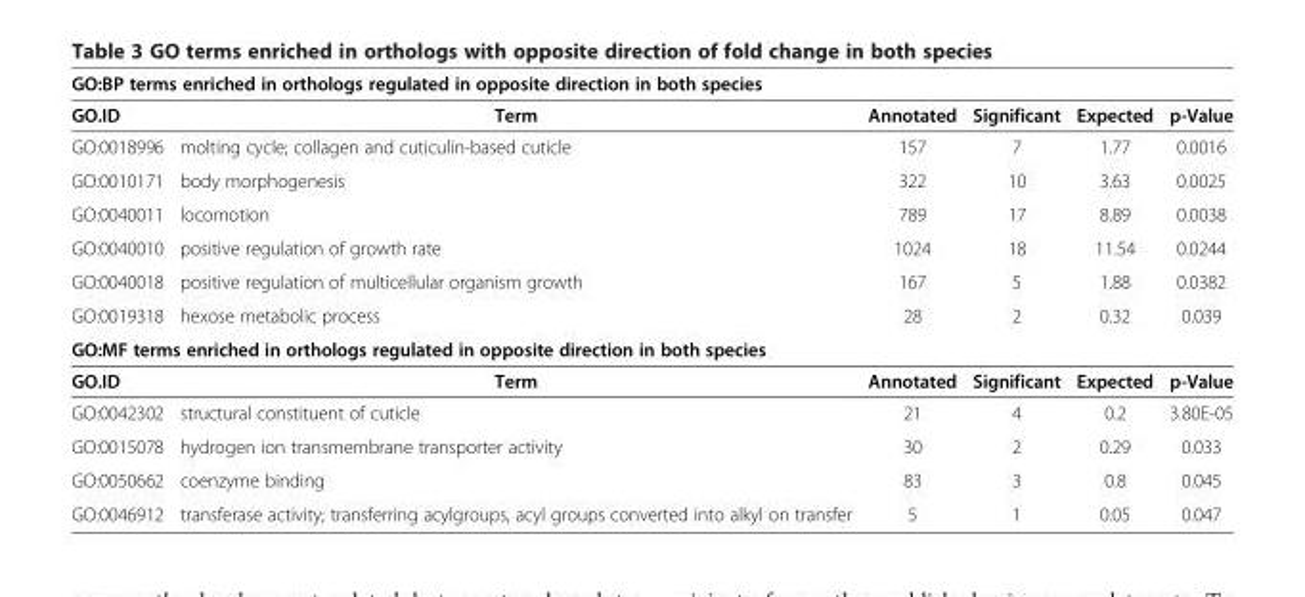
<table><thead><tr><td colspan="6">GO:BP terms enriched in orthologs regulated in opposite direction in both species</td></tr><tr><td>GO.ID</td><td>Term</td><td>Annotated</td><td>Significant</td><td>Expected</td><td>p-Value</td></tr></thead><tbody><tr><td>GO:0018996</td><td>molting cycle; collagen and cuticulin-based cuticle</td><td>157</td><td>7</td><td>1.77</td><td>0.0016</td></tr><tr><td>GO:0010171</td><td>body morphogenesis</td><td>322</td><td>10</td><td>3.63</td><td>0.0025</td></tr><tr><td>GO:0040011</td><td>locomotion</td><td>789</td><td>17</td><td>8.89</td><td>0.0038</td></tr><tr><td>GO:0040010</td><td>positive regulation of growth rate</td><td>1024</td><td>18</td><td>11.54</td><td>0.0244</td></tr><tr><td>GO:0040018</td><td>positive regulation of multicellular organism growth</td><td>167</td><td>5</td><td>1.88</td><td>0.0382</td></tr><tr><td>GO:0019318</td><td>hexose metabolic process</td><td>28</td><td>2</td><td>0.32</td><td>0.039</td></tr><tr><td colspan="6">GO:MF terms enriched in orthologs regulated in opposite direction in both species</td></tr><tr><td>GO.ID</td><td>Term</td><td>Annotated</td><td>Significant</td><td>Expected</td><td>p-Value</td></tr><tr><td>GO:0042302</td><td>structural constituent of cuticle</td><td>21</td><td>4</td><td>0.2</td><td>3.80E-05</td></tr><tr><td>GO:0015078</td><td>hydrogen ion transmembrane transporter activity</td><td>30</td><td>2</td><td>0.29</td><td>0.033</td></tr><tr><td>GO:0050662</td><td>coenzyme binding</td><td>83</td><td>3</td><td>0.8</td><td>0.045</td></tr><tr><td>GO:0046912</td><td>transferase activity; transferring acylgroups, acyl groups converted into alkyl on transfer</td><td>5</td><td>1</td><td>0.05</td><td>0.047</td></tr></tbody></table>